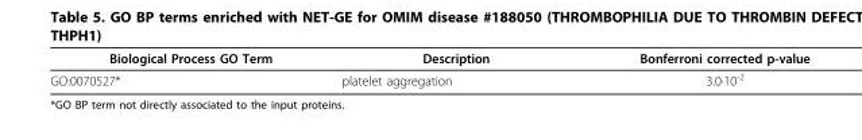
<table><thead><tr><td>Biological Process GO Term</td><td>Description</td><td>Bonferroni corrected p-value</td></tr></thead><tbody><tr><td>GO:0070527*</td><td>platelet aggregation</td><td>3.0·10<sup>-2</sup></td></tr></tbody></table>